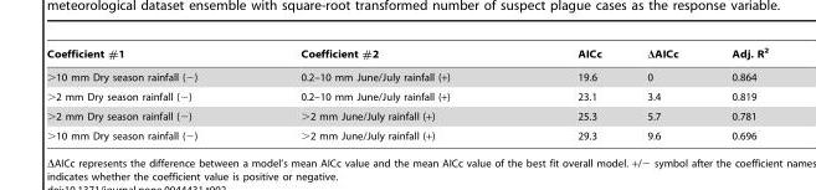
<table><thead><tr><td>Coefficient #1</td><td>Coefficient #2</td><td>AICc</td><td>ΔAICc</td><td>Adj. R<sup>2</sup></td></tr></thead><tbody><tr><td>&gt;10 mm Dry season rainfall (−)</td><td>0.2–10 mm June/July rainfall (+)</td><td>19.6</td><td>0</td><td>0.864</td></tr><tr><td>&gt;2 mm Dry season rainfall (−)</td><td>0.2–10 mm June/July rainfall (+)</td><td>23.1</td><td>3.4</td><td>0.819</td></tr><tr><td>&gt;2 mm Dry season rainfall (−)</td><td>&gt;2 mm June/July rainfall (+)</td><td>25.3</td><td>5.7</td><td>0.781</td></tr><tr><td>&gt;10 mm Dry season rainfall (−)</td><td>&gt;2 mm June/July rainfall (+)</td><td>29.3</td><td>9.6</td><td>0.696</td></tr></tbody></table>